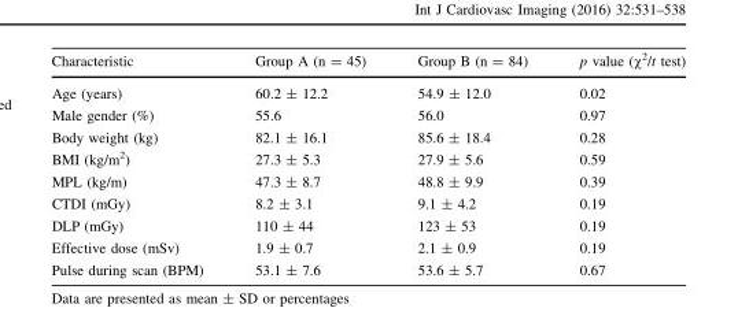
<table><thead><tr><td>Characteristic</td><td>Group A (n = 45)</td><td>Group B (n = 84)</td><td>p value (χ<sup>2</sup>/t test)</td></tr></thead><tbody><tr><td>Age (years)</td><td>60.2 ± 12.2</td><td>54.9 ± 12.0</td><td>0.02</td></tr><tr><td>Male gender (%)</td><td>55.6</td><td>56.0</td><td>0.97</td></tr><tr><td>Body weight (kg)</td><td>82.1 ± 16.1</td><td>85.6 ± 18.4</td><td>0.28</td></tr><tr><td>BMI (kg/m<sup>2</sup>)</td><td>27.3 ± 5.3</td><td>27.9 ± 5.6</td><td>0.59</td></tr><tr><td>MPL (kg/m)</td><td>47.3 ± 8.7</td><td>48.8 ± 9.9</td><td>0.39</td></tr><tr><td>CTDI (mGy)</td><td>8.2 ± 3.1</td><td>9.1 ± 4.2</td><td>0.19</td></tr><tr><td>DLP (mGy)</td><td>110 ± 44</td><td>123 ± 53</td><td>0.19</td></tr><tr><td>Effective dose (mSv)</td><td>1.9 ± 0.7</td><td>2.1 ± 0.9</td><td>0.19</td></tr><tr><td>Pulse during scan (BPM)</td><td>53.1 ± 7.6</td><td>53.6 ± 5.7</td><td>0.67</td></tr></tbody></table>